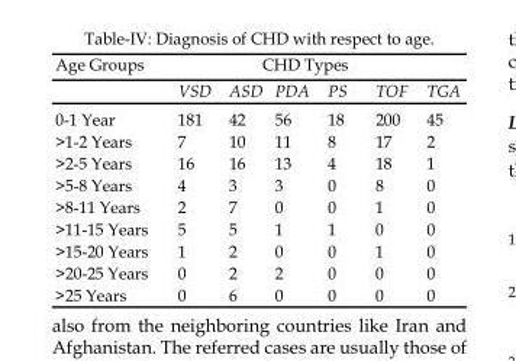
<table><thead><tr><td rowspan="2">Age Groups</td><td colspan="6">CHD Types</td></tr><tr><td>VSD</td><td>ASD</td><td>PDA</td><td>PS</td><td>TOF</td><td>TGA</td></tr></thead><tbody><tr><td>0-1 Year</td><td>181</td><td>42</td><td>56</td><td>18</td><td>200</td><td>45</td></tr><tr><td>&gt;1-2 Years</td><td>7</td><td>10</td><td>11</td><td>8</td><td>17</td><td>2</td></tr><tr><td>&gt;2-5 Years</td><td>16</td><td>16</td><td>13</td><td>4</td><td>18</td><td>1</td></tr><tr><td>&gt;5-8 Years</td><td>4</td><td>3</td><td>3</td><td>0</td><td>8</td><td>0</td></tr><tr><td>&gt;8-11 Years</td><td>2</td><td>7</td><td>0</td><td>0</td><td>1</td><td>0</td></tr><tr><td>&gt;11-15 Years</td><td>5</td><td>5</td><td>1</td><td>1</td><td>0</td><td>0</td></tr><tr><td>&gt;15-20 Years</td><td>1</td><td>2</td><td>0</td><td>0</td><td>1</td><td>0</td></tr><tr><td>&gt;20-25 Years</td><td>0</td><td>2</td><td>2</td><td>0</td><td>0</td><td>0</td></tr><tr><td>&gt;25 Years</td><td>0</td><td>6</td><td>0</td><td>0</td><td>0</td><td>0</td></tr></tbody></table>